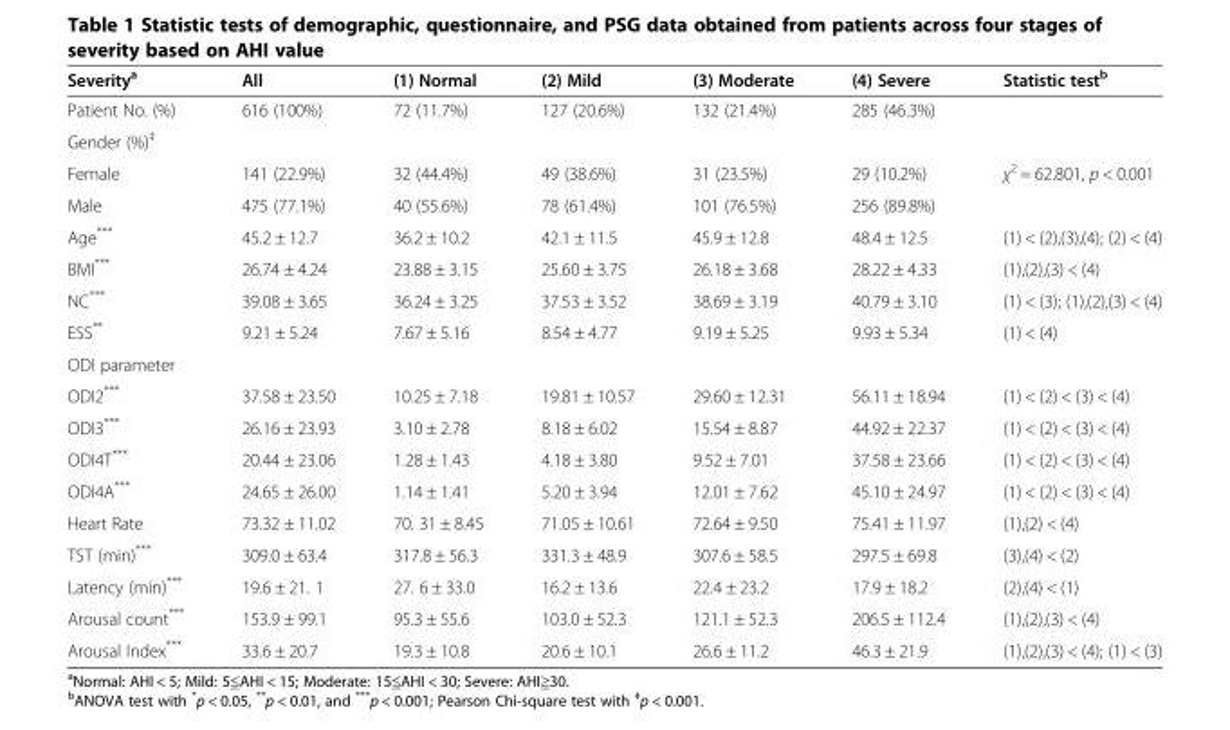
<table><thead><tr><td>Severity<sup>a</sup></td><td>All</td><td>(1) Normal</td><td>(2) Mild</td><td>(3) Moderate</td><td>(4) Severe</td><td>Statistic test<sup>b</sup></td></tr></thead><tbody><tr><td>Patient No. (%)</td><td>616 (100%)</td><td>72 (11.7%)</td><td>127 (20.6%)</td><td>132 (21.4%)</td><td>285 (46.3%)</td><td></td></tr><tr><td colspan="7">Gender (%)<sup>‡</sup></td></tr><tr><td>Female</td><td>141 (22.9%)</td><td>32 (44.4%)</td><td>49 (38.6%)</td><td>31 (23.5%)</td><td>29 (10.2%)</td><td rowspan="2">χ<sup>2</sup> = 62.801, p &lt; 0.001</td></tr><tr><td>Male</td><td>475 (77.1%)</td><td>40 (55.6%)</td><td>78 (61.4%)</td><td>101 (76.5%)</td><td>256 (89.8%)</td></tr><tr><td>Age***</td><td>45.2 ± 12.7</td><td>36.2 ± 10.2</td><td>42.1 ± 11.5</td><td>45.9 ± 12.8</td><td>48.4 ± 12.5</td><td>(1) &lt; (2),(3),(4); (2) &lt; (4)</td></tr><tr><td>BMI***</td><td>26.74 ± 4.24</td><td>23.88 ± 3.15</td><td>25.60 ± 3.75</td><td>26.18 ± 3.68</td><td>28.22 ± 4.33</td><td>(1),(2),(3) &lt; (4)</td></tr><tr><td>NC***</td><td>39.08 ± 3.65</td><td>36.24 ± 3.25</td><td>37.53 ± 3.52</td><td>38.69 ± 3.19</td><td>40.79 ± 3.10</td><td>(1) &lt; (3); (1),(2),(3) &lt; (4)</td></tr><tr><td>ESS**</td><td>9.21 ± 5.24</td><td>7.67 ± 5.16</td><td>8.54 ± 4.77</td><td>9.19 ± 5.25</td><td>9.93 ± 5.34</td><td>(1) &lt; (4)</td></tr><tr><td colspan="7">ODI parameter</td></tr><tr><td>ODI2***</td><td>37.58 ± 23.50</td><td>10.25 ± 7.18</td><td>19.81 ± 10.57</td><td>29.60 ± 12.31</td><td>56.11 ± 18.94</td><td>(1) &lt; (2) &lt; (3) &lt; (4)</td></tr><tr><td>ODI3***</td><td>26.16 ± 23.93</td><td>3.10 ± 2.78</td><td>8.18 ± 6.02</td><td>15.54 ± 8.87</td><td>44.92 ± 22.37</td><td>(1) &lt; (2) &lt; (3) &lt; (4)</td></tr><tr><td>ODI4T***</td><td>20.44 ± 23.06</td><td>1.28 ± 1.43</td><td>4.18 ± 3.80</td><td>9.52 ± 7.01</td><td>37.58 ± 23.66</td><td>(1) &lt; (2) &lt; (3) &lt; (4)</td></tr><tr><td>ODI4A***</td><td>24.65 ± 26.00</td><td>1.14 ± 1.41</td><td>5.20 ± 3.94</td><td>12.01 ± 7.62</td><td>45.10 ± 24.97</td><td>(1) &lt; (2) &lt; (3) &lt; (4)</td></tr><tr><td>Heart Rate</td><td>73.32 ± 11.02</td><td>70. 31 ± 8.45</td><td>71.05 ± 10.61</td><td>72.64 ± 9.50</td><td>75.41 ± 11.97</td><td>(1),(2) &lt; (4)</td></tr><tr><td>TST (min)***</td><td>309.0 ± 63.4</td><td>317.8 ± 56.3</td><td>331.3 ± 48.9</td><td>307.6 ± 58.5</td><td>297.5 ± 69.8</td><td>(3),(4) &lt; (2)</td></tr><tr><td>Latency (min)***</td><td>19.6 ± 21. 1</td><td>27. 6 ± 33.0</td><td>16.2 ± 13.6</td><td>22.4 ± 23.2</td><td>17.9 ± 18.2</td><td>(2),(4) &lt; (1)</td></tr><tr><td>Arousal count***</td><td>153.9 ± 99.1</td><td>95.3 ± 55.6</td><td>103.0 ± 52.3</td><td>121.1 ± 52.3</td><td>206.5 ± 112.4</td><td>(1),(2),(3) &lt; (4)</td></tr><tr><td>Arousal Index***</td><td>33.6 ± 20.7</td><td>19.3 ± 10.8</td><td>20.6 ± 10.1</td><td>26.6 ± 11.2</td><td>46.3 ± 21.9</td><td>(1),(2),(3) &lt; (4); (1) &lt; (3)</td></tr></tbody></table>